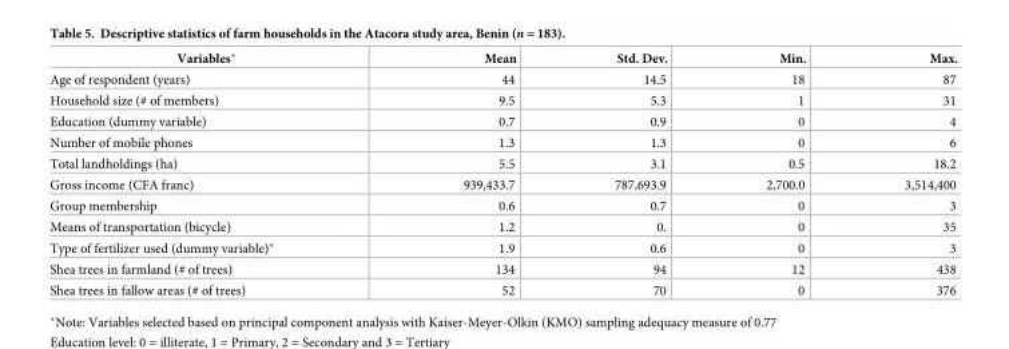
<table><thead><tr><td>Variables*</td><td>Mean</td><td>Std. Dev.</td><td>Min.</td><td>Max.</td></tr></thead><tbody><tr><td>Age of respondent (years)</td><td>44</td><td>14.5</td><td>18</td><td>87</td></tr><tr><td>Household size (# of members)</td><td>9.5</td><td>5.3</td><td>1</td><td>31</td></tr><tr><td>Education (dummy variable)</td><td>0.7</td><td>0.9</td><td>0</td><td>4</td></tr><tr><td>Number of mobile phones</td><td>1.3</td><td>1.3</td><td>0</td><td>6</td></tr><tr><td>Total landholdings (ha)</td><td>5.5</td><td>3.1</td><td>0.5</td><td>18.2</td></tr><tr><td>Gross income (CFA franc)</td><td>939,433.7</td><td>787,693.9</td><td>2,700.0</td><td>3,514,400</td></tr><tr><td>Group membership</td><td>0.6</td><td>0.7</td><td>0</td><td>3</td></tr><tr><td>Means of transportation (bicycle)</td><td>1.2</td><td>0.</td><td>0</td><td>35</td></tr><tr><td>Type of fertilizer used (dummy variable)*</td><td>1.9</td><td>0.6</td><td>0</td><td>3</td></tr><tr><td>Shea trees in farmland (# of trees)</td><td>134</td><td>94</td><td>12</td><td>438</td></tr><tr><td>Shea trees in fallow areas (# of trees)</td><td>52</td><td>70</td><td>0</td><td>376</td></tr></tbody></table>